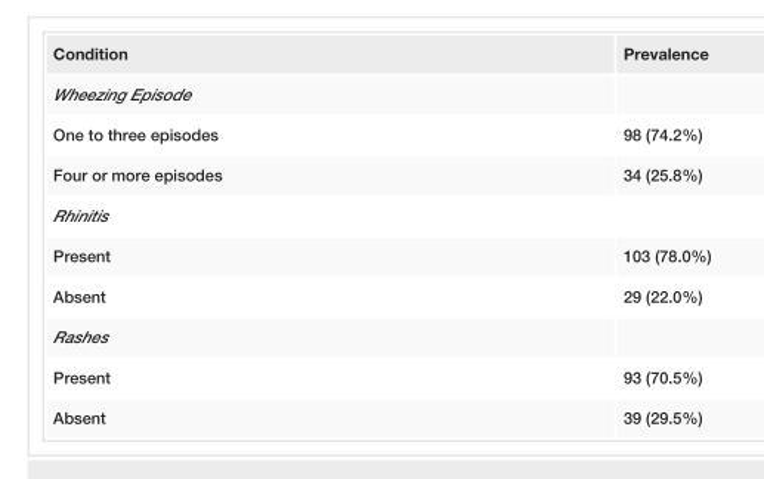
<table><tbody><tr><td>Condition</td><td>Prevalence</td></tr><tr><td colspan="2">Wheezing Episode</td></tr><tr><td>One to three episodes</td><td>98 (74.2%)</td></tr><tr><td>Four or more episodes</td><td>34 (25.8%)</td></tr><tr><td colspan="2">Rhinitis</td></tr><tr><td>Present</td><td>103 (78.0%)</td></tr><tr><td>Absent</td><td>29 (22.0%)</td></tr><tr><td colspan="2">Rashes</td></tr><tr><td>Present</td><td>93 (70.5%)</td></tr><tr><td>Absent</td><td>39 (29.5%)</td></tr></tbody></table>